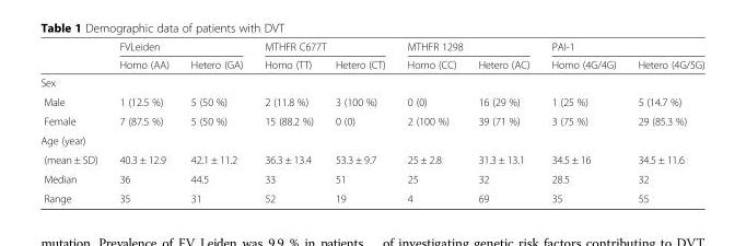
<table><thead><tr><td rowspan="2"></td><td colspan="2">FVLeiden</td><td colspan="2">MTHFR C677T</td><td colspan="2">MTHFR 1298</td><td colspan="2">PAI-1</td></tr><tr><td>Homo (AA)</td><td>Hetero (GA)</td><td>Homo (TT)</td><td>Hetero (CT)</td><td>Homo (CC)</td><td>Hetero (AC)</td><td>Homo (4G/4G)</td><td>Hetero (4G/5G)</td></tr></thead><tbody><tr><td colspan="9">Sex</td></tr><tr><td>Male</td><td>1 (12.5 %)</td><td>5 (50 %)</td><td>2 (11.8 %)</td><td>3 (100 %)</td><td>0 (0)</td><td>16 (29 %)</td><td>1 (25 %)</td><td>5 (14.7 %)</td></tr><tr><td>Female</td><td>7 (87.5 %)</td><td>5 (50 %)</td><td>15 (88.2 %)</td><td>0 (0)</td><td>2 (100 %)</td><td>39 (71 %)</td><td>3 (75 %)</td><td>29 (85.3 %)</td></tr><tr><td colspan="9">Age (year)</td></tr><tr><td>(mean ± SD)</td><td>40.3 ± 12.9</td><td>42.1 ± 11.2</td><td>36.3 ± 13.4</td><td>53.3 ± 9.7</td><td>25 ± 2.8</td><td>31.3 ± 13.1</td><td>34.5 ± 16</td><td>34.5 ± 11.6</td></tr><tr><td>Median</td><td>36</td><td>44.5</td><td>33</td><td>51</td><td>25</td><td>32</td><td>28.5</td><td>32</td></tr><tr><td>Range</td><td>35</td><td>31</td><td>52</td><td>19</td><td>4</td><td>69</td><td>35</td><td>55</td></tr></tbody></table>